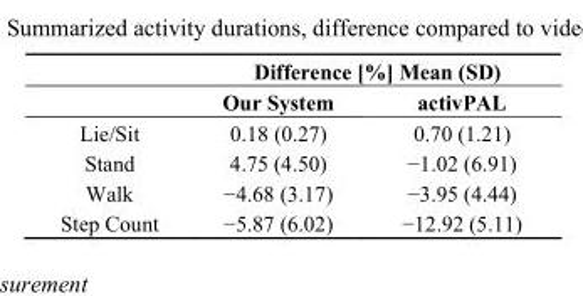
<table><thead><tr><td rowspan="2"></td><td colspan="2">Difference [%] Mean (SD)</td></tr><tr><td>Our System</td><td>activPAL</td></tr></thead><tbody><tr><td>Lie/Sit</td><td>0.18 (0.27)</td><td>0.70 (1.21)</td></tr><tr><td>Stand</td><td>4.75 (4.50)</td><td>−1.02 (6.91)</td></tr><tr><td>Walk</td><td>−4.68 (3.17)</td><td>−3.95 (4.44)</td></tr><tr><td>Step Count</td><td>−5.87 (6.02)</td><td>−12.92 (5.11)</td></tr></tbody></table>